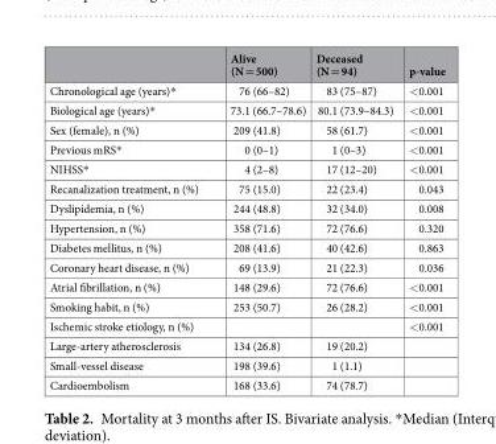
<table><thead><tr><td></td><td>Alive (N = 500)</td><td>Deceased (N = 94)</td><td>p-value</td></tr></thead><tbody><tr><td>Chronological age (years)*</td><td>76 (66–82)</td><td>83 (75–87)</td><td>&lt;0.001</td></tr><tr><td>Biological age (years)*</td><td>73.1 (66.7–78.6)</td><td>80.1 (73.9–84.3)</td><td>&lt;0.001</td></tr><tr><td>Sex (female), n (%)</td><td>209 (41.8)</td><td>58 (61.7)</td><td>&lt;0.001</td></tr><tr><td>Previous mRS*</td><td>0 (0–1)</td><td>1 (0–3)</td><td>&lt;0.001</td></tr><tr><td>NIHSS*</td><td>4 (2–8)</td><td>17 (12–20)</td><td>&lt;0.001</td></tr><tr><td>Recanalization treatment, n (%)</td><td>75 (15.0)</td><td>22 (23.4)</td><td>0.043</td></tr><tr><td>Dyslipidemia, n (%)</td><td>244 (48.8)</td><td>32 (34.0)</td><td>0.008</td></tr><tr><td>Hypertension, n (%)</td><td>358 (71.6)</td><td>72 (76.6)</td><td>0.320</td></tr><tr><td>Diabetes mellitus, n (%)</td><td>208 (41.6)</td><td>40 (42.6)</td><td>0.863</td></tr><tr><td>Coronary heart disease, n (%)</td><td>69 (13.9)</td><td>21 (22.3)</td><td>0.036</td></tr><tr><td>Atrial fibrillation, n (%)</td><td>148 (29.6)</td><td>72 (76.6)</td><td>&lt;0.001</td></tr><tr><td>Smoking habit, n (%)</td><td>253 (50.7)</td><td>26 (28.2)</td><td>&lt;0.001</td></tr><tr><td>Ischemic stroke etiology, n (%)</td><td></td><td></td><td>&lt;0.001</td></tr><tr><td>Large-artery atherosclerosis</td><td>134 (26.8)</td><td>19 (20.2)</td><td></td></tr><tr><td>Small-vessel disease</td><td>198 (39.6)</td><td>1 (1.1)</td><td></td></tr><tr><td>Cardioembolism</td><td>168 (33.6)</td><td>74 (78.7)</td><td></td></tr></tbody></table>